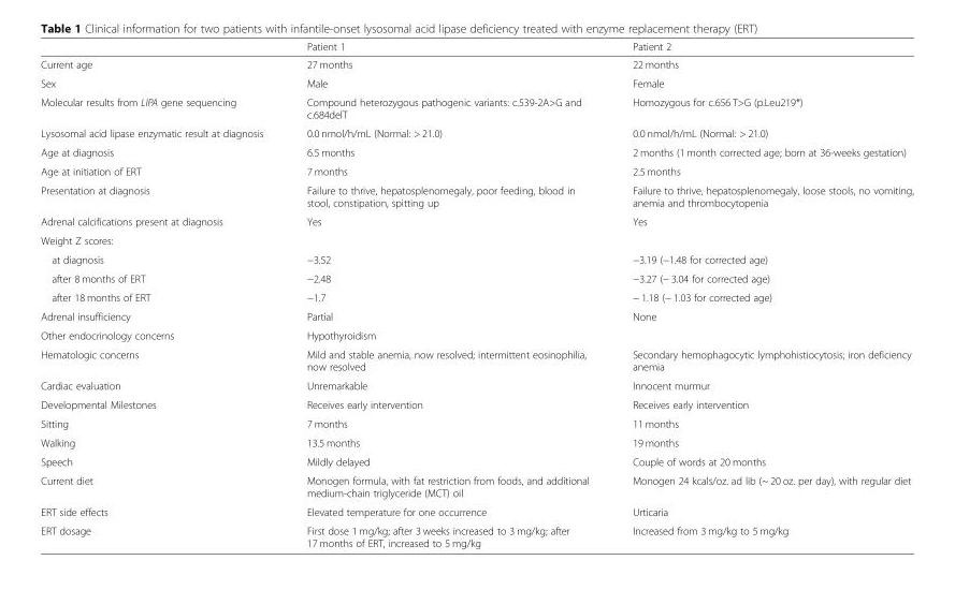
<table><thead><tr><td></td><td>Patient 1</td><td>Patient 2</td></tr></thead><tbody><tr><td>Current age</td><td>27 months</td><td>22 months</td></tr><tr><td>Sex</td><td>Male</td><td>Female</td></tr><tr><td>Molecular results from LIPA gene sequencing</td><td>Compound heterozygous pathogenic variants: c.539-2A&gt;G and c.684delT</td><td>Homozygous for c.656 T&gt;G (p.Leu219*)</td></tr><tr><td>Lysosomal acid lipase enzymatic result at diagnosis</td><td>0.0 nmol/h/mL (Normal: &gt; 21.0)</td><td>0.0 nmol/h/mL (Normal: &gt; 21.0)</td></tr><tr><td>Age at diagnosis</td><td>6.5 months</td><td>2 months (1 month corrected age; born at 36-weeks gestation)</td></tr><tr><td>Age at initiation of ERT</td><td>7 months</td><td>2.5 months</td></tr><tr><td>Presentation at diagnosis</td><td>Failure to thrive, hepatosplenomegaly, poor feeding, blood in stool, constipation, spitting up</td><td>Failure to thrive, hepatosplenomegaly, loose stools, no vomiting, anemia and thrombocytopenia</td></tr><tr><td>Adrenal calcifications present at diagnosis</td><td>Yes</td><td>Yes</td></tr><tr><td colspan="3">Weight Z scores:</td></tr><tr><td>at diagnosis</td><td>−3.52</td><td>−3.19 (−1.48 for corrected age)</td></tr><tr><td>after 8 months of ERT</td><td>−2.48</td><td>−3.27 (− 3.04 for corrected age)</td></tr><tr><td>after 18 months of ERT</td><td>−1.7</td><td>− 1.18 (− 1.03 for corrected age)</td></tr><tr><td>Adrenal insufficiency</td><td>Partial</td><td>None</td></tr><tr><td>Other endocrinology concerns</td><td>Hypothyroidism</td><td></td></tr><tr><td>Hematologic concerns</td><td>Mild and stable anemia, now resolved; intermittent eosinophilia, now resolved</td><td>Secondary hemophagocytic lymphohistiocytosis; iron deficiency anemia</td></tr><tr><td>Cardiac evaluation</td><td>Unremarkable</td><td>Innocent murmur</td></tr><tr><td>Developmental Milestones</td><td>Receives early intervention</td><td>Receives early intervention</td></tr><tr><td>Sitting</td><td>7 months</td><td>11 months</td></tr><tr><td>Walking</td><td>13.5 months</td><td>19 months</td></tr><tr><td>Speech</td><td>Mildly delayed</td><td>Couple of words at 20 months</td></tr><tr><td>Current diet</td><td>Monogen formula, with fat restriction from foods, and additional medium-chain triglyceride (MCT) oil</td><td>Monogen 24 kcals/oz. ad lib (~ 20 oz. per day), with regular diet</td></tr><tr><td>ERT side effects</td><td>Elevated temperature for one occurrence</td><td>Urticaria</td></tr><tr><td>ERT dosage</td><td>First dose 1 mg/kg; after 3 weeks increased to 3 mg/kg; after 17 months of ERT, increased to 5 mg/kg</td><td>Increased from 3 mg/kg to 5 mg/kg</td></tr></tbody></table>